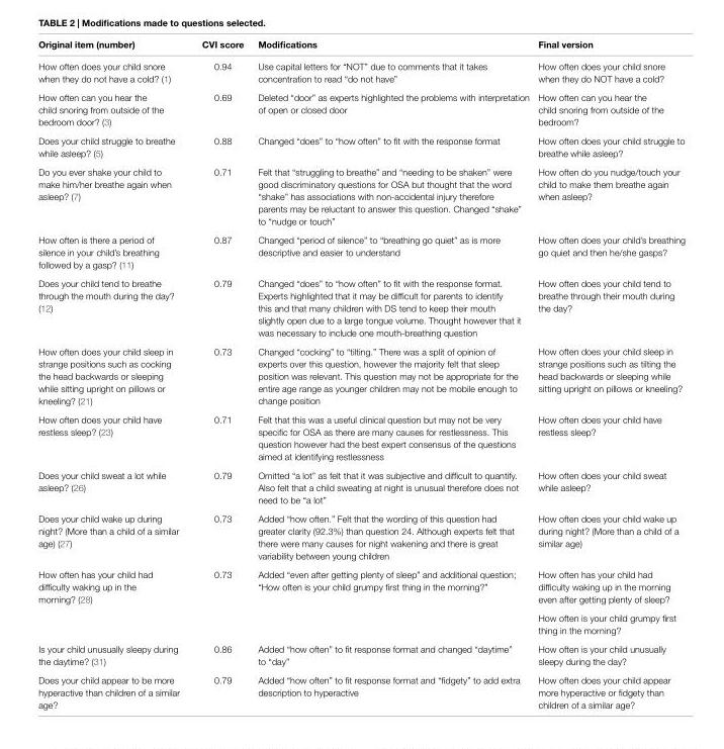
<table><thead><tr><td>Original item (number)</td><td>cVi score</td><td>Modifications</td><td>Final version</td></tr></thead><tbody><tr><td>How often does your child snore when they do not have a cold? (1)</td><td>0.94</td><td>Use capital letters for “NOT” due to comments that it takes concentration to read “do not have”</td><td>How often does your child snore when they do NOT have a cold?</td></tr><tr><td>How often can you hear the child snoring from outside of the bedroom door? (3)</td><td>0.69</td><td>Deleted “door” as experts highlighted the problems with interpretation of open or closed door</td><td>How often can you hear the child snoring from outside of the bedroom?</td></tr><tr><td>Does your child struggle to breathe while asleep? (5)</td><td>0.88</td><td>Changed “does” to “how often” to fit with the response format</td><td>How often does your child struggle to breathe while asleep?</td></tr><tr><td>Do you ever shake your child to make him/her breathe again when asleep? (7)</td><td>0.71</td><td>Felt that “struggling to breathe” and “needing to be shaken” were good discriminatory questions for OSA but thought that the word “shake” has associations with non-accidental injury therefore parents may be reluctant to answer this question. Changed “shake” to “nudge or touch”</td><td>How often do you nudge/touch your child to make them breathe again when asleep?</td></tr><tr><td>How often is there a period of silence in your child’s breathing followed by a gasp? (11)</td><td>0.87</td><td>Changed “period of silence” to “breathing go quiet” as is more descriptive and easier to understand</td><td>How often does your child’s breathing go quiet and then he/she gasps?</td></tr><tr><td>Does your child tend to breathe through the mouth during the day? (12)</td><td>0.79</td><td>Changed “does” to “how often” to fit with the response format. Experts highlighted that it may be difficult for parents to identify this and that many children with DS tend to keep their mouth slightly open due to a large tongue volume. Thought however that it was necessary to include one mouth-breathing question</td><td>How often does your child tend to breathe through their mouth during the day?</td></tr><tr><td>How often does your child sleep in strange positions such as cocking the head backwards or sleeping while sitting upright on pillows or kneeling? (21)</td><td>0.73</td><td>Changed “cocking” to “tilting.” There was a split of opinion of experts over this question, however the majority felt that sleep position was relevant. This question may not be appropriate for the entire age range as younger children may not be mobile enough to change position</td><td>How often does your child sleep in strange positions such as tilting the head backwards or sleeping while sitting upright on pillows or kneeling?</td></tr><tr><td>How often does your child have restless sleep? (23)</td><td>0.71</td><td>Felt that this was a useful clinical question but may not be very specific for OSA as there are many causes for restlessness. This question however had the best expert consensus of the questions aimed at identifying restlessness</td><td>How often does your child have restless sleep?</td></tr><tr><td>Does your child sweat a lot while asleep? (26)</td><td>0.79</td><td>Omitted “a lot” as felt that it was subjective and difficult to quantify. Also felt that a child sweating at night is unusual therefore does not need to be “a lot”</td><td>How often does your child sweat while asleep?</td></tr><tr><td>Does your child wake up during night? (More than a child of a similar age) (27)</td><td>0.73</td><td>Added “how often.” Felt that the wording of this question had greater clarity (92.3%) than question 24. Although experts felt that there were many causes for night wakening and there is great variability between young children</td><td>How often does your child wake up during night? (More than a child of a similar age)</td></tr><tr><td rowspan="2">How often has your child had difficulty waking up in the morning? (28)</td><td rowspan="2">0.73</td><td rowspan="2">Added “even after getting plenty of sleep” and additional question; “How often is your child grumpy first thing in the morning?”</td><td>How often has your child had difficulty waking up in the morning even after getting plenty of sleep?</td></tr><tr><td>How often is your child grumpy first thing in the morning?</td></tr><tr><td>Is your child unusually sleepy during the daytime? (31)</td><td>0.86</td><td>Added “how often” to fit response format and changed “daytime” to “day”</td><td>How often is your child unusually sleepy during the day?</td></tr><tr><td>Does your child appear to be more hyperactive than children of a similar age?</td><td>0.79</td><td>Added “how often” to fit response format and “fidgety” to add extra description to hyperactive</td><td>How often does your child appear more hyperactive or fidgety than children of a similar age?</td></tr></tbody></table>